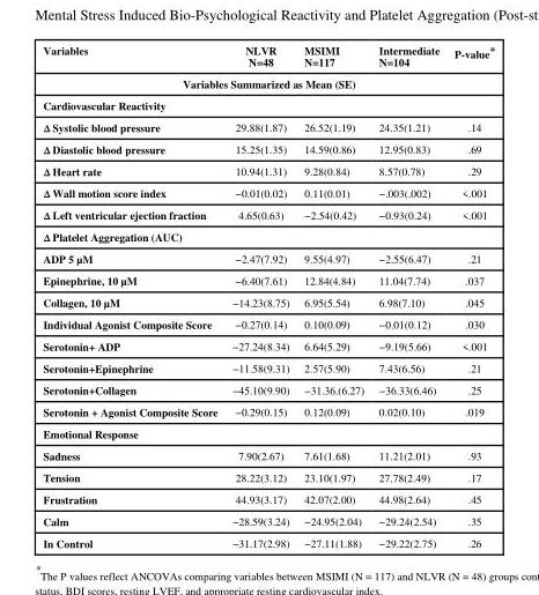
<table><thead><tr><td>Variables</td><td>NLVR N=48</td><td>MSIMI N=117</td><td>Intermediate N=104</td><td>P-value*</td></tr></thead><tbody><tr><td colspan="5">Variables Summarized as Mean (SE)</td></tr><tr><td colspan="5">Cardiovascular Reactivity</td></tr><tr><td>Δ Systolic blood pressure</td><td>29.88(1.87)</td><td>26.52(1.19)</td><td>24.35(1.21)</td><td>.14</td></tr><tr><td>Δ Diastolic blood pressure</td><td>15.25(1.35)</td><td>14.59(0.86)</td><td>12.95(0.83)</td><td>.69</td></tr><tr><td>Δ Heart rate</td><td>10.94(1.31)</td><td>9.28(0.84)</td><td>8.57(0.78)</td><td>.29</td></tr><tr><td>Δ Wall motion score index</td><td>−0.01(0.02)</td><td>0.11(0.01)</td><td>−.003(.002)</td><td>&lt;.001</td></tr><tr><td>Δ Left ventricular ejection fraction</td><td>4.65(0.63)</td><td>−2.54(0.42)</td><td>−0.93(0.24)</td><td>&lt;.001</td></tr><tr><td colspan="5">Δ Platelet Aggregation (AUC)</td></tr><tr><td>ADP 5 μM</td><td>−2.47(7.92)</td><td>9.55(4.97)</td><td>−2.55(6.47)</td><td>.21</td></tr><tr><td>Epinephrine, 10 μM</td><td>−6.40(7.61)</td><td>12.84(4.84)</td><td>11.04(7.74)</td><td>.037</td></tr><tr><td>Collagen, 10 μM</td><td>−14.23(8.75)</td><td>6.95(5.54)</td><td>6.98(7.10)</td><td>.045</td></tr><tr><td>Individual Agonist Composite Score</td><td>−0.27(0.14)</td><td>0.10(0.09)</td><td>−0.01(0.12)</td><td>.030</td></tr><tr><td>Serotonin+ ADP</td><td>−27.24(8.34)</td><td>6.64(5.29)</td><td>−9.19(5.66)</td><td>&lt;.001</td></tr><tr><td>Serotonin+Epinephrine</td><td>−11.58(9.31)</td><td>2.57(5.90)</td><td>7.43(6.56)</td><td>.21</td></tr><tr><td>Serotonin+Collagen</td><td>−45.10(9.90)</td><td>−31.36.(6.27)</td><td>−36.33(6.46)</td><td>.25</td></tr><tr><td>Serotonin + Agonist Composite Score</td><td>−0.29(0.15)</td><td>0.12(0.09)</td><td>0.02(0.10)</td><td>.019</td></tr><tr><td colspan="5">Emotional Response</td></tr><tr><td>Sadness</td><td>7.90(2.67)</td><td>7.61(1.68)</td><td>11.21(2.01)</td><td>.93</td></tr><tr><td>Tension</td><td>28.22(3.12)</td><td>23.10(1.97)</td><td>27.78(2.49)</td><td>.17</td></tr><tr><td>Frustration</td><td>44.93(3.17)</td><td>42.07(2.00)</td><td>44.98(2.64)</td><td>.45</td></tr><tr><td>Calm</td><td>−28.59(3.24)</td><td>−24.95(2.04)</td><td>−29.24(2.54)</td><td>.35</td></tr><tr><td>In Control</td><td>−31.17(2.98)</td><td>−27.11(1.88)</td><td>−29.22(2.75)</td><td>.26</td></tr></tbody></table>